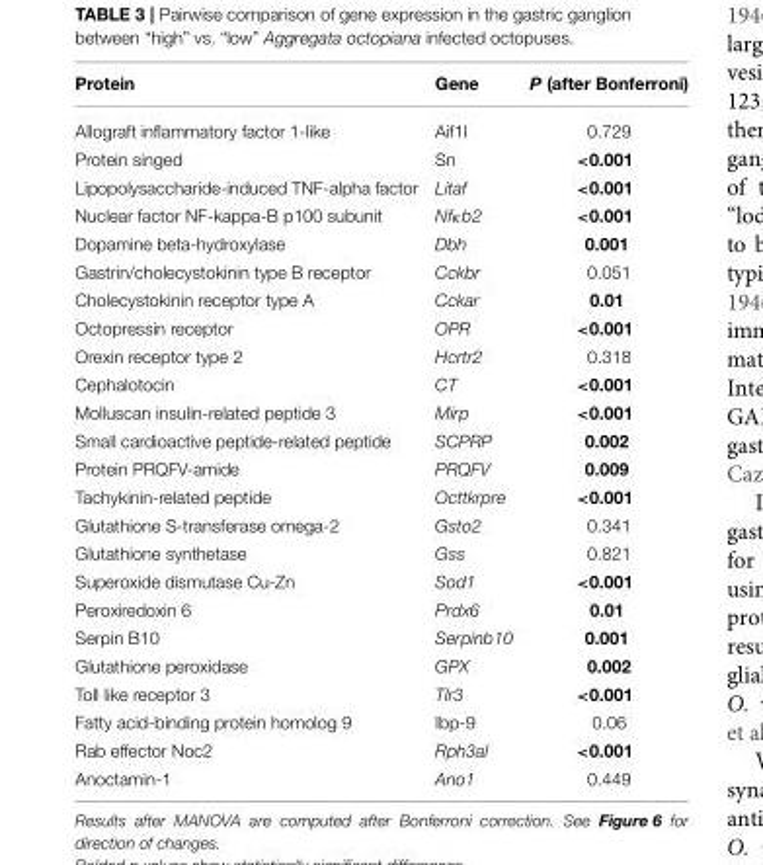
<table><thead><tr><td>Protein</td><td>Gene</td><td>P (after Bonferroni)</td></tr></thead><tbody><tr><td>Allograft inflammatory factor 1-like</td><td>Aif1l</td><td>0.729</td></tr><tr><td>Protein singed</td><td>Sn</td><td>&lt;0.001</td></tr><tr><td>Lipopolysaccharide-induced TNF-alpha factor</td><td>Litaf</td><td>&lt;0.001</td></tr><tr><td>Nuclear factor NF-kappa-B p100 subunit</td><td>Nfκb2</td><td>&lt;0.001</td></tr><tr><td>Dopamine beta-hydroxylase</td><td>Dbh</td><td>0.001</td></tr><tr><td>Gastrin/cholecystokinin type B receptor</td><td>Cckbr</td><td>0.051</td></tr><tr><td>Cholecystokinin receptor type A</td><td>Cckar</td><td>0.01</td></tr><tr><td>Octopressin receptor</td><td>OPR</td><td>&lt;0.001</td></tr><tr><td>Orexin receptor type 2</td><td>Hcrtr2</td><td>0.318</td></tr><tr><td>Cephalotocin</td><td>CT</td><td>&lt;0.001</td></tr><tr><td>Molluscan insulin-related peptide 3</td><td>Mirp</td><td>&lt;0.001</td></tr><tr><td>Small cardioactive peptide-related peptide</td><td>SCPRP</td><td>0.002</td></tr><tr><td>Protein PRQFV-amide</td><td>PRQFV</td><td>0.009</td></tr><tr><td>Tachykinin-related peptide</td><td>Octtkrpre</td><td>&lt;0.001</td></tr><tr><td>Glutathione S-transferase omega-2</td><td>Gsto2</td><td>0.341</td></tr><tr><td>Glutathione synthetase</td><td>Gss</td><td>0.821</td></tr><tr><td>Superoxide dismutase Cu-Zn</td><td>Sod1</td><td>&lt;0.001</td></tr><tr><td>Peroxiredoxin 6</td><td>Prdx6</td><td>0.01</td></tr><tr><td>Serpin B10</td><td>Serpinb10</td><td>0.001</td></tr><tr><td>Glutathione peroxidase</td><td>GPX</td><td>0.002</td></tr><tr><td>Toll like receptor 3</td><td>Tlr3</td><td>&lt;0.001</td></tr><tr><td>Fatty acid-binding protein homolog 9</td><td>Ibp-9</td><td>0.06</td></tr><tr><td>Rab effector Noc2</td><td>Rph3al</td><td>&lt;0.001</td></tr><tr><td>Anoctamin-1</td><td>Ano1</td><td>0.449</td></tr></tbody></table>